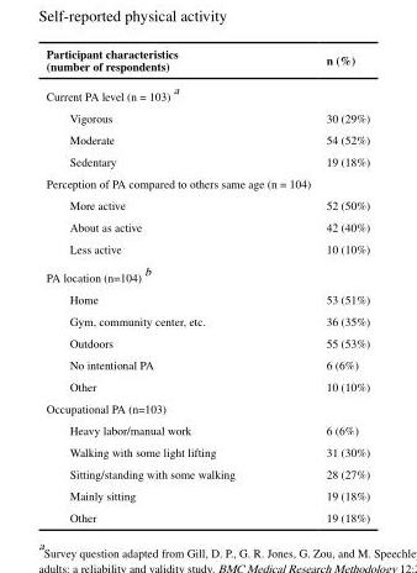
<table><thead><tr><td>Participant characteristics (number of respondents)</td><td>n (%)</td></tr></thead><tbody><tr><td colspan="2">Current PA level (n = 103) <sup>a</sup></td></tr><tr><td>Vigorous</td><td>30 (29%)</td></tr><tr><td>Moderate</td><td>54 (52%)</td></tr><tr><td>Sedentary</td><td>19 (18%)</td></tr><tr><td colspan="2">Perception of PA compared to others same age (n = 104)</td></tr><tr><td>More active</td><td>52 (50%)</td></tr><tr><td>About as active</td><td>42 (40%)</td></tr><tr><td>Less active</td><td>10 (10%)</td></tr><tr><td colspan="2">PA location (n=104) <sup>b</sup></td></tr><tr><td>Home</td><td>53 (51%)</td></tr><tr><td>Gym, community center, etc.</td><td>36 (35%)</td></tr><tr><td>Outdoors</td><td>55 (53%)</td></tr><tr><td>No intentional PA</td><td>6 (6%)</td></tr><tr><td>Other</td><td>10 (10%)</td></tr><tr><td colspan="2">Occupational PA (n=103)</td></tr><tr><td>Heavy labor/manual work</td><td>6 (6%)</td></tr><tr><td>Walking with some light lifting</td><td>31 (30%)</td></tr><tr><td>Sitting/standing with some walking</td><td>28 (27%)</td></tr><tr><td>Mainly sitting</td><td>19 (18%)</td></tr><tr><td>Other</td><td>19 (18%)</td></tr></tbody></table>